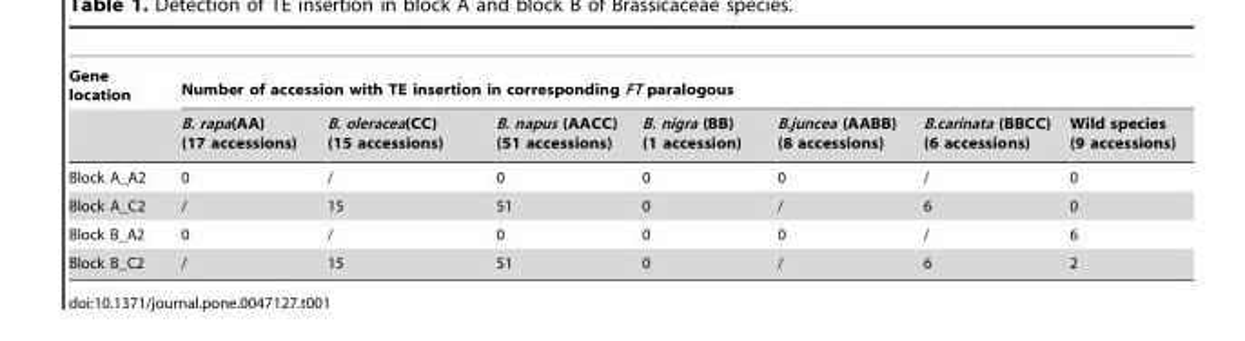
<table><thead><tr><td rowspan="2">Gene location</td><td colspan="7">Number of accession with TE insertion in corresponding FT paralogous</td></tr><tr><td>B. rapa(AA) (17 accessions)</td><td>B. oleracea(CC) (15 accessions)</td><td>B. napus (AACC) (51 accessions)</td><td>B. nigra (BB) (1 accession)</td><td>B.juncea (AABB) (8 accessions)</td><td>B.carinata (BBCC) (6 accessions)</td><td>Wild species (9 accessions)</td></tr></thead><tbody><tr><td>Block A_A2</td><td>0</td><td>/</td><td>0</td><td>0</td><td>0</td><td>/</td><td>0</td></tr><tr><td>Block A_C2</td><td>/</td><td>15</td><td>51</td><td>0</td><td>/</td><td>6</td><td>0</td></tr><tr><td>Block B_A2</td><td>0</td><td>/</td><td>0</td><td>0</td><td>0</td><td>/</td><td>6</td></tr><tr><td>Block B_C2</td><td>/</td><td>15</td><td>51</td><td>0</td><td>/</td><td>6</td><td>2</td></tr></tbody></table>